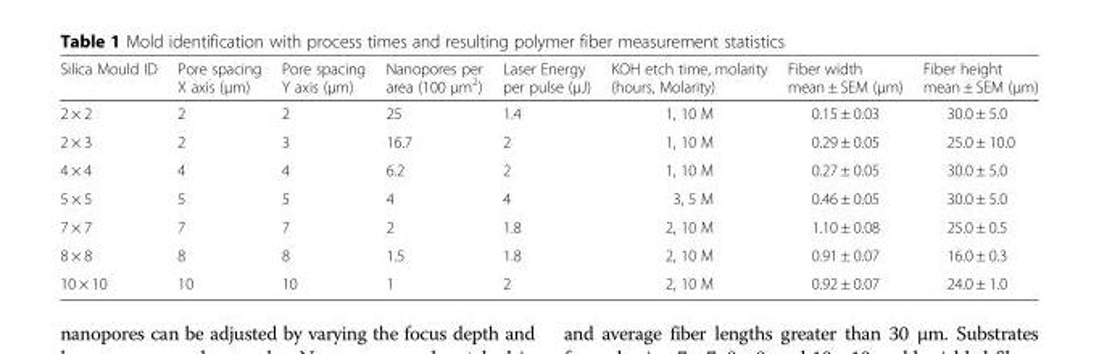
<table><thead><tr><td>Silica Mould ID</td><td>Pore spacing X axis (μm)</td><td>Pore spacing Y axis (μm)</td><td>Nanopores per area (100 μm<sup>2</sup>)</td><td>Laser Energy per pulse (μJ)</td><td>KOH etch time, molarity (hours, Molarity)</td><td>Fiber width mean ± SEM (μm)</td><td>Fiber height mean ± SEM (μm)</td></tr></thead><tbody><tr><td>2 × 2</td><td>2</td><td>2</td><td>25</td><td>1.4</td><td>1, 10 M</td><td>0.15 ± 0.03</td><td>30.0 ± 5.0</td></tr><tr><td>2 × 3</td><td>2</td><td>3</td><td>16.7</td><td>2</td><td>1, 10 M</td><td>0.29 ± 0.05</td><td>25.0 ± 10.0</td></tr><tr><td>4 × 4</td><td>4</td><td>4</td><td>6.2</td><td>2</td><td>1, 10 M</td><td>0.27 ± 0.05</td><td>30.0 ± 5.0</td></tr><tr><td>5 × 5</td><td>5</td><td>5</td><td>4</td><td>4</td><td>3, 5 M</td><td>0.46 ± 0.05</td><td>30.0 ± 5.0</td></tr><tr><td>7 × 7</td><td>7</td><td>7</td><td>2</td><td>1.8</td><td>2, 10 M</td><td>1.10 ± 0.08</td><td>25.0 ± 0.5</td></tr><tr><td>8 × 8</td><td>8</td><td>8</td><td>1.5</td><td>1.8</td><td>2, 10 M</td><td>0.91 ± 0.07</td><td>16.0 ± 0.3</td></tr><tr><td>10 × 10</td><td>10</td><td>10</td><td>1</td><td>2</td><td>2, 10 M</td><td>0.92 ± 0.07</td><td>24.0 ± 1.0</td></tr></tbody></table>